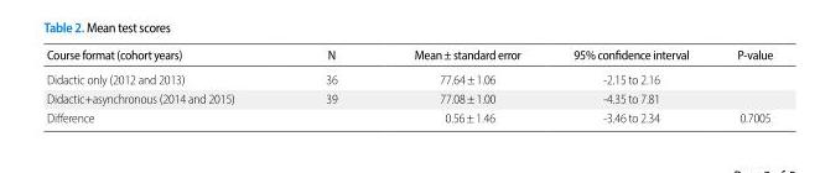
<table><thead><tr><td>Course format (cohort years)</td><td>N</td><td>Mean±standard error</td><td>95% confidence interval</td><td>P-value</td></tr></thead><tbody><tr><td>Didactic only (2012 and 2013)</td><td>36</td><td>77.64±1.06</td><td>-2.15 to 2.16</td><td></td></tr><tr><td>Didactic+asynchronous (2014 and 2015)</td><td>39</td><td>77.08±1.00</td><td>-4.35 to 7.81</td><td></td></tr><tr><td>Difference</td><td></td><td>0.56±1.46</td><td>-3.46 to 2.34</td><td>0.7005</td></tr></tbody></table>